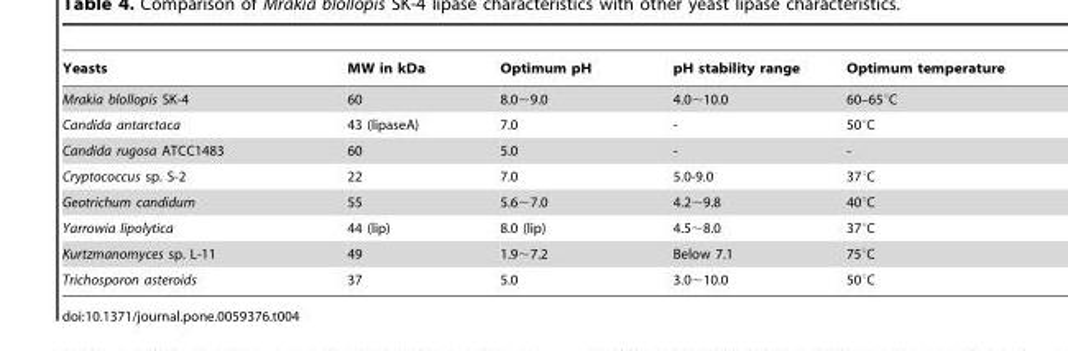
<table><thead><tr><td>Yeasts</td><td>MW in kDa</td><td>Optimum pH</td><td>pH stability range</td><td>Optimum temperature</td></tr></thead><tbody><tr><td>Mrakia blollopis SK-4</td><td>60</td><td>8.0∼9.0</td><td>4.0∼10.0</td><td>60–65°C</td></tr><tr><td>Candida antarctaca</td><td>43 (lipaseA)</td><td>7.0</td><td>-</td><td>50°C</td></tr><tr><td>Candida rugosa ATCC1483</td><td>60</td><td>5.0</td><td>-</td><td>-</td></tr><tr><td>Cryptococcus sp. S-2</td><td>22</td><td>7.0</td><td>5.0-9.0</td><td>37°C</td></tr><tr><td>Geotrichum candidum</td><td>55</td><td>5.6∼7.0</td><td>4.2∼9.8</td><td>40°C</td></tr><tr><td>Yarrowia lipolytica</td><td>44 (lip)</td><td>8.0 (lip)</td><td>4.5∼8.0</td><td>37°C</td></tr><tr><td>Kurtzmanomyces sp. L-11</td><td>49</td><td>1.9∼7.2</td><td>Below 7.1</td><td>75°C</td></tr><tr><td>Trichosporon asteroids</td><td>37</td><td>5.0</td><td>3.0∼10.0</td><td>50°C</td></tr></tbody></table>